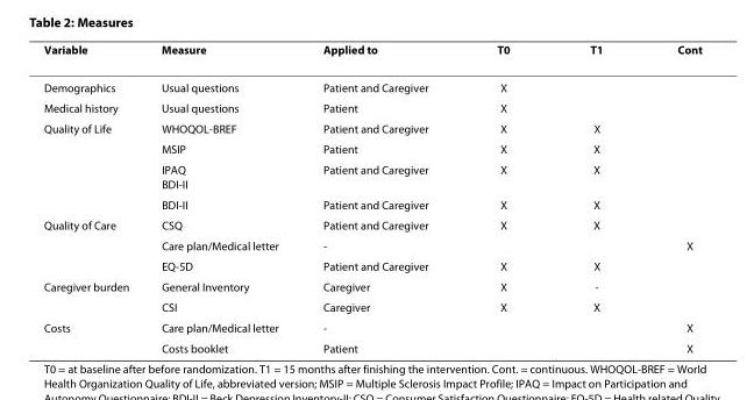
<table><thead><tr><td>Variable</td><td>Measure</td><td>Applied to</td><td>T0</td><td>T1</td><td>Cont</td></tr></thead><tbody><tr><td>Demographics</td><td>Usual questions</td><td>Patient and Caregiver</td><td>X</td><td></td><td></td></tr><tr><td>Medical history</td><td>Usual questions</td><td>Patient</td><td>X</td><td></td><td></td></tr><tr><td rowspan="4">Quality of Life</td><td>WHOQOL-BREF</td><td>Patient and Caregiver</td><td>X</td><td>X</td><td></td></tr><tr><td>MSIP</td><td>Patient</td><td>X</td><td>X</td><td></td></tr><tr><td>IPAQ BDI-II</td><td>Patient and Caregiver</td><td>X</td><td>X</td><td></td></tr><tr><td>BDI-II</td><td>Patient and Caregiver</td><td>X</td><td>X</td><td></td></tr><tr><td rowspan="3">Quality of Care</td><td>CSQ</td><td>Patient and Caregiver</td><td>X</td><td>X</td><td></td></tr><tr><td>Care plan/Medical letter</td><td>-</td><td></td><td></td><td>X</td></tr><tr><td>EQ-5D</td><td>Patient and Caregiver</td><td>X</td><td>X</td><td></td></tr><tr><td rowspan="2">Caregiver burden</td><td>General Inventory</td><td>Caregiver</td><td>X</td><td>-</td><td></td></tr><tr><td>CSI</td><td>Caregiver</td><td>X</td><td>X</td><td></td></tr><tr><td rowspan="2">Costs</td><td>Care plan/Medical letter</td><td>-</td><td></td><td></td><td>X</td></tr><tr><td>Costs booklet</td><td>Patient</td><td></td><td></td><td>X</td></tr></tbody></table>